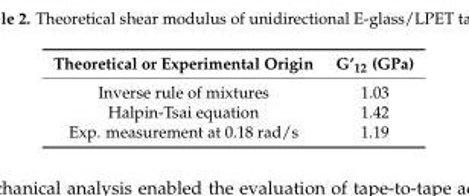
<table><thead><tr><td>Theoretical or Experimental Origin</td><td>G’<sub>12</sub> (GPa)</td></tr></thead><tbody><tr><td>Inverse rule of mixtures</td><td>1.03</td></tr><tr><td>Halpin-Tsai equation</td><td>1.42</td></tr><tr><td>Exp. measurement at 0.18 rad/s</td><td>1.19</td></tr></tbody></table>